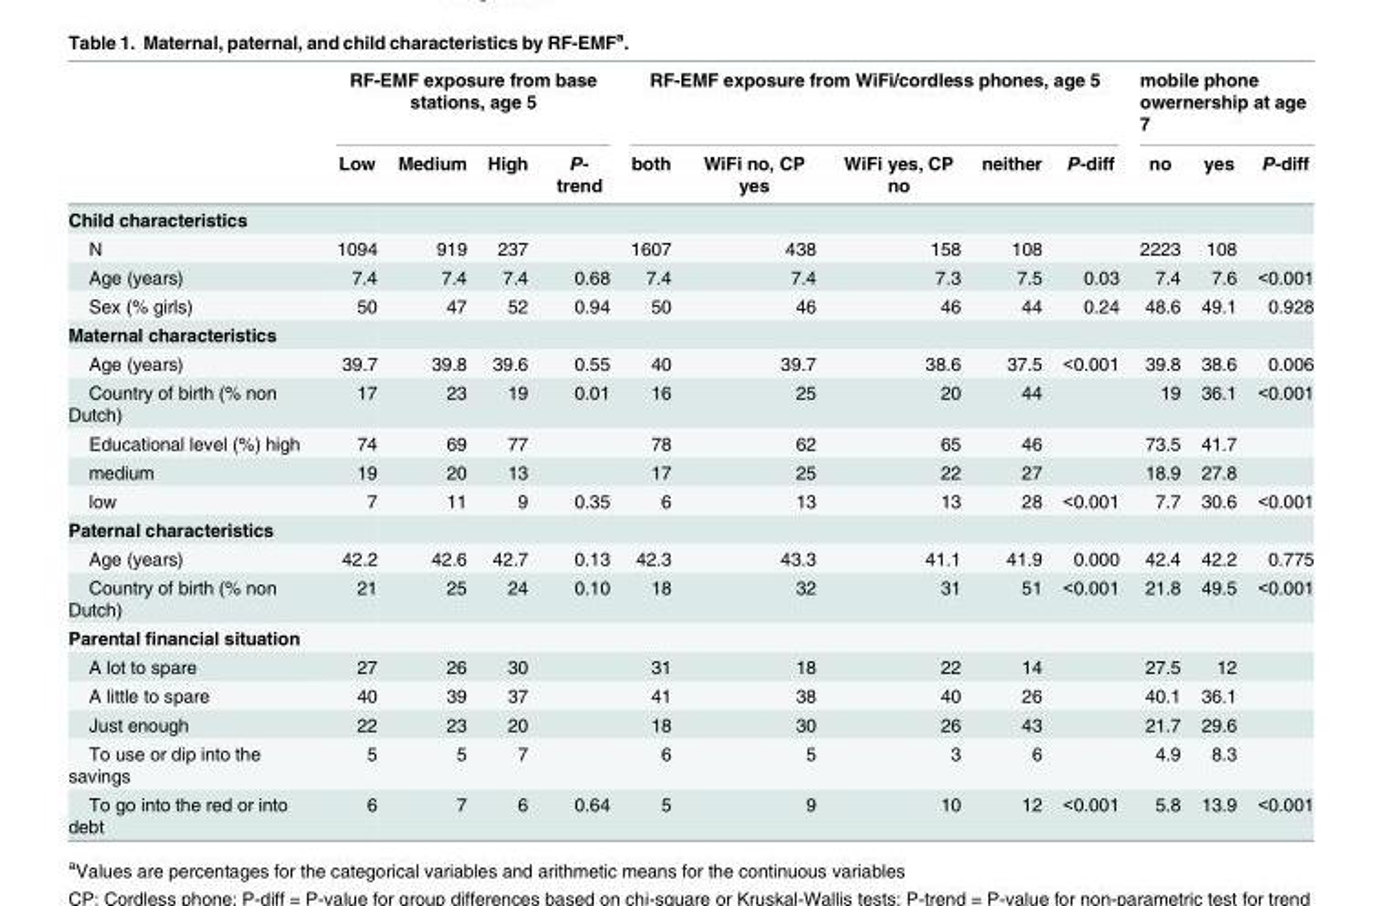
<table><thead><tr><td rowspan="2"></td><td colspan="4">RF-EMF exposure from base stations, age 5</td><td colspan="5">RF-EMF exposure from WiFi/cordless phones, age 5</td><td colspan="3">mobile phone owernership at age 7</td></tr><tr><td>Low</td><td>Medium</td><td>High</td><td>P- trend</td><td>both</td><td>WiFi no, CP yes</td><td>WiFi yes, CP no</td><td>neither</td><td>P-diff</td><td>no</td><td>yes</td><td>P-diff</td></tr></thead><tbody><tr><td colspan="13">Child characteristics</td></tr><tr><td>N</td><td>1094</td><td>919</td><td>237</td><td></td><td>1607</td><td>438</td><td>158</td><td>108</td><td></td><td>2223</td><td>108</td><td></td></tr><tr><td>Age (years)</td><td>7.4</td><td>7.4</td><td>7.4</td><td>0.68</td><td>7.4</td><td>7.4</td><td>7.3</td><td>7.5</td><td>0.03</td><td>7.4</td><td>7.6</td><td>&lt;0.001</td></tr><tr><td>Sex (% girls)</td><td>50</td><td>47</td><td>52</td><td>0.94</td><td>50</td><td>46</td><td>46</td><td>44</td><td>0.24</td><td>48.6</td><td>49.1</td><td>0.928</td></tr><tr><td colspan="13">Maternal characteristics</td></tr><tr><td>Age (years)</td><td>39.7</td><td>39.8</td><td>39.6</td><td>0.55</td><td>40</td><td>39.7</td><td>38.6</td><td>37.5</td><td>&lt;0.001</td><td>39.8</td><td>38.6</td><td>0.006</td></tr><tr><td>Country of birth (% non Dutch)</td><td>17</td><td>23</td><td>19</td><td>0.01</td><td>16</td><td>25</td><td>20</td><td>44</td><td></td><td>19</td><td>36.1</td><td>&lt;0.001</td></tr><tr><td>Educational level (%) high</td><td>74</td><td>69</td><td>77</td><td></td><td>78</td><td>62</td><td>65</td><td>46</td><td></td><td>73.5</td><td>41.7</td><td></td></tr><tr><td>medium</td><td>19</td><td>20</td><td>13</td><td></td><td>17</td><td>25</td><td>22</td><td>27</td><td></td><td>18.9</td><td>27.8</td><td></td></tr><tr><td>low</td><td>7</td><td>11</td><td>9</td><td>0.35</td><td>6</td><td>13</td><td>13</td><td>28</td><td>&lt;0.001</td><td>7.7</td><td>30.6</td><td>&lt;0.001</td></tr><tr><td colspan="13">Paternal characteristics</td></tr><tr><td>Age (years)</td><td>42.2</td><td>42.6</td><td>42.7</td><td>0.13</td><td>42.3</td><td>43.3</td><td>41.1</td><td>41.9</td><td>0.000</td><td>42.4</td><td>42.2</td><td>0.775</td></tr><tr><td>Country of birth (% non Dutch)</td><td>21</td><td>25</td><td>24</td><td>0.10</td><td>18</td><td>32</td><td>31</td><td>51</td><td>&lt;0.001</td><td>21.8</td><td>49.5</td><td>&lt;0.001</td></tr><tr><td colspan="13">Parental financial situation</td></tr><tr><td>A lot to spare</td><td>27</td><td>26</td><td>30</td><td></td><td>31</td><td>18</td><td>22</td><td>14</td><td></td><td>27.5</td><td>12</td><td></td></tr><tr><td>A little to spare</td><td>40</td><td>39</td><td>37</td><td></td><td>41</td><td>38</td><td>40</td><td>26</td><td></td><td>40.1</td><td>36.1</td><td></td></tr><tr><td>Just enough</td><td>22</td><td>23</td><td>20</td><td></td><td>18</td><td>30</td><td>26</td><td>43</td><td></td><td>21.7</td><td>29.6</td><td></td></tr><tr><td>To use or dip into the savings</td><td>5</td><td>5</td><td>7</td><td></td><td>6</td><td>5</td><td>3</td><td>6</td><td></td><td>4.9</td><td>8.3</td><td></td></tr><tr><td>To go into the red or into debt</td><td>6</td><td>7</td><td>6</td><td>0.64</td><td>5</td><td>9</td><td>10</td><td>12</td><td>&lt;0.001</td><td>5.8</td><td>13.9</td><td>&lt;0.001</td></tr></tbody></table>